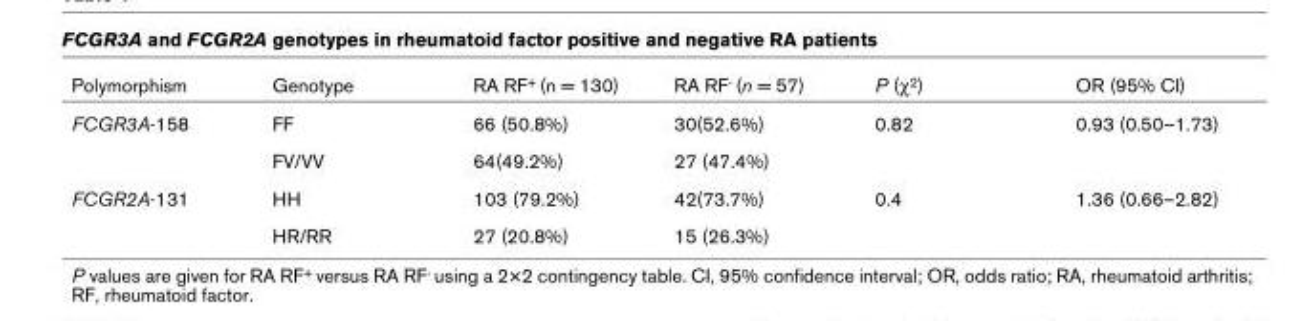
<table><thead><tr><td>Polymorphism</td><td>Genotype</td><td>RA RF+ (n = 130)</td><td>RA RF- (n = 57)</td><td>P (χ2)</td><td>OR (95% CI)</td></tr></thead><tbody><tr><td rowspan="2">FCGR3A-158</td><td>FF</td><td>66 (50.8%)</td><td>30(52.6%)</td><td>0.82</td><td>0.93 (0.50–1.73)</td></tr><tr><td>FV/VV</td><td>64(49.2%)</td><td>27 (47.4%)</td><td></td><td></td></tr><tr><td rowspan="2">FCGR2A-131</td><td>HH</td><td>103 (79.2%)</td><td>42(73.7%)</td><td>0.4</td><td>1.36 (0.66–2.82)</td></tr><tr><td>HR/RR</td><td>27 (20.8%)</td><td>15 (26.3%)</td><td></td><td></td></tr></tbody></table>